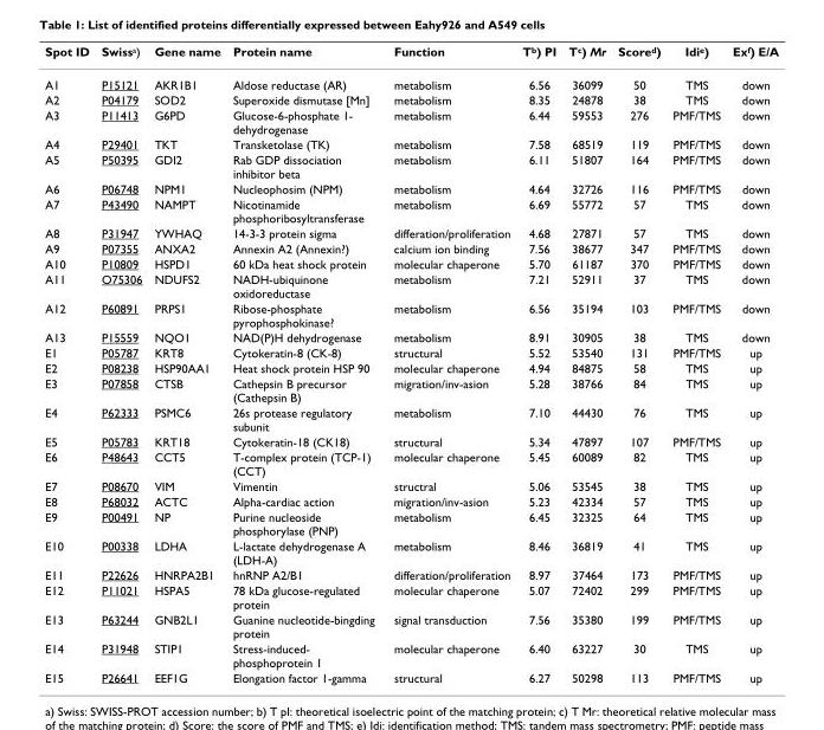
<table><thead><tr><td>Spot ID</td><td>Swiss<sup>a</sup>)</td><td>Gene name</td><td>Protein name</td><td>Function</td><td>T<sup>b</sup>) PI</td><td>T<sup>c</sup>) Mr</td><td>Score<sup>d</sup>)</td><td>Idi<sup>e</sup>)</td><td>Ex<sup>f</sup>) E/A</td></tr></thead><tbody><tr><td>A1</td><td>P15121</td><td>AKR1B1</td><td>Aldose reductase (AR)</td><td>metabolism</td><td>6.56</td><td>36099</td><td>50</td><td>TMS</td><td>down</td></tr><tr><td>A2</td><td>P04179</td><td>SOD2</td><td>Superoxide dismutase [Mn]</td><td>metabolism</td><td>8.35</td><td>24878</td><td>38</td><td>TMS</td><td>down</td></tr><tr><td>A3</td><td>P11413</td><td>G6PD</td><td>Glucose-6-phosphate 1- dehydrogenase</td><td>metabolism</td><td>6.44</td><td>59553</td><td>276</td><td>PMF/TMS</td><td>down</td></tr><tr><td>A4</td><td>P29401</td><td>TKT</td><td>Transketolase (TK)</td><td>metabolism</td><td>7.58</td><td>68519</td><td>119</td><td>PMF/TMS</td><td>down</td></tr><tr><td>A5</td><td>P50395</td><td>GDI2</td><td>Rab GDP dissociation inhibitor beta</td><td>metabolism</td><td>6.11</td><td>51807</td><td>164</td><td>PMF/TMS</td><td>down</td></tr><tr><td>A6</td><td>P06748</td><td>NPM1</td><td>Nucleophosim (NPM)</td><td>metabolism</td><td>4.64</td><td>32726</td><td>116</td><td>PMF/TMS</td><td>down</td></tr><tr><td>A7</td><td>P43490</td><td>NAMPT</td><td>Nicotinamide phosphoribosyltransferase</td><td>metabolism</td><td>6.69</td><td>55772</td><td>57</td><td>TMS</td><td>down</td></tr><tr><td>A8</td><td>P31947</td><td>YWHAQ</td><td>14-3-3 protein sigma</td><td>differation/proliferation</td><td>4.68</td><td>27871</td><td>57</td><td>TMS</td><td>down</td></tr><tr><td>A9</td><td>P07355</td><td>ANXA2</td><td>Annexin A2 (Annexin?)</td><td>calcium ion binding</td><td>7.56</td><td>38677</td><td>347</td><td>PMF/TMS</td><td>down</td></tr><tr><td>A10</td><td>P10809</td><td>HSPD1</td><td>60 kDa heat shock protein</td><td>molecular chaperone</td><td>5.70</td><td>61187</td><td>370</td><td>PMF/TMS</td><td>down</td></tr><tr><td>A11</td><td>O75306</td><td>NDUFS2</td><td>NADH-ubiquinone oxidoreductase</td><td>metabolism</td><td>7.21</td><td>52911</td><td>37</td><td>TMS</td><td>down</td></tr><tr><td>A12</td><td>P60891</td><td>PRPS1</td><td>Ribose-phosphate pyrophosphokinase?</td><td>metabolism</td><td>6.56</td><td>35194</td><td>103</td><td>PMF/TMS</td><td>down</td></tr><tr><td>A13</td><td>P15559</td><td>NQO1</td><td>NAD(P)H dehydrogenase</td><td>metabolism</td><td>8.91</td><td>30905</td><td>38</td><td>TMS</td><td>down</td></tr><tr><td>E1</td><td>P05787</td><td>KRT8</td><td>Cytokeratin-8 (CK-8)</td><td>structural</td><td>5.52</td><td>53540</td><td>131</td><td>PMF/TMS</td><td>up</td></tr><tr><td>E2</td><td>P08238</td><td>HSP90AA1</td><td>Heat shock protein HSP 90</td><td>molecular chaperone</td><td>4.94</td><td>84875</td><td>58</td><td>TMS</td><td>up</td></tr><tr><td>E3</td><td>P07858</td><td>CTSB</td><td>Cathepsin B precursor (Cathepsin B)</td><td>migration/inv-asion</td><td>5.28</td><td>38766</td><td>84</td><td>TMS</td><td>up</td></tr><tr><td>E4</td><td>P62333</td><td>PSMC6</td><td>26s protease regulatory subunit</td><td>metabolism</td><td>7.10</td><td>44430</td><td>76</td><td>TMS</td><td>up</td></tr><tr><td>E5</td><td>P05783</td><td>KRT18</td><td>Cytokeratin-18 (CK18)</td><td>structural</td><td>5.34</td><td>47897</td><td>107</td><td>PMF/TMS</td><td>up</td></tr><tr><td>E6</td><td>P48643</td><td>CCT5</td><td>T-complex protein (TCP-1) (CCT)</td><td>molecular chaperone</td><td>5.45</td><td>60089</td><td>82</td><td>TMS</td><td>up</td></tr><tr><td>E7</td><td>P08670</td><td>VIM</td><td>Vimentin</td><td>structral</td><td>5.06</td><td>53545</td><td>38</td><td>TMS</td><td>up</td></tr><tr><td>E8</td><td>P68032</td><td>ACTC</td><td>Alpha-cardiac action</td><td>migration/inv-asion</td><td>5.23</td><td>42334</td><td>57</td><td>TMS</td><td>up</td></tr><tr><td>E9</td><td>P00491</td><td>NP</td><td>Purine nucleoside phosphorylase (PNP)</td><td>metabolism</td><td>6.45</td><td>32325</td><td>64</td><td>TMS</td><td>up</td></tr><tr><td>E10</td><td>P00338</td><td>LDHA</td><td>L-lactate dehydrogenase A (LDH-A)</td><td>metabolism</td><td>8.46</td><td>36819</td><td>41</td><td>TMS</td><td>up</td></tr><tr><td>E11</td><td>P22626</td><td>HNRPA2B1</td><td>hnRNP A2/B1</td><td>differation/proliferation</td><td>8.97</td><td>37464</td><td>173</td><td>PMF/TMS</td><td>up</td></tr><tr><td>E12</td><td>P11021</td><td>HSPA5</td><td>78 kDa glucose-regulated protein</td><td>molecular chaperone</td><td>5.07</td><td>72402</td><td>299</td><td>PMF/TMS</td><td>up</td></tr><tr><td>E13</td><td>P63244</td><td>GNB2L1</td><td>Guanine nucleotide-bingding protein</td><td>signal transduction</td><td>7.56</td><td>35380</td><td>199</td><td>PMF/TMS</td><td>up</td></tr><tr><td>E14</td><td>P31948</td><td>STIP1</td><td>Stress-induced- phosphoprotein 1</td><td>molecular chaperone</td><td>6.40</td><td>63227</td><td>30</td><td>TMS</td><td>up</td></tr><tr><td>E15</td><td>P26641</td><td>EEF1G</td><td>Elongation factor 1-gamma</td><td>structural</td><td>6.27</td><td>50298</td><td>113</td><td>PMF/TMS</td><td>up</td></tr></tbody></table>